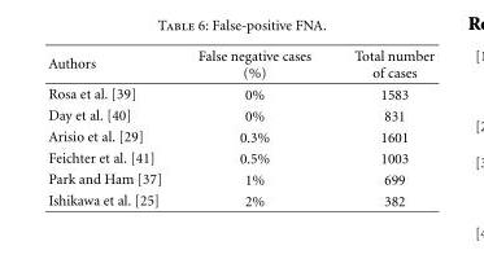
<table><thead><tr><td>Authors</td><td>False negative cases (%)</td><td>Total number of cases</td></tr></thead><tbody><tr><td>Rosa et al. [39]</td><td>0%</td><td>1583</td></tr><tr><td>Day et al. [40]</td><td>0%</td><td>831</td></tr><tr><td>Arisio et al. [29]</td><td>0.3%</td><td>1601</td></tr><tr><td>Feichter et al. [41]</td><td>0.5%</td><td>1003</td></tr><tr><td>Park and Ham [37]</td><td>1%</td><td>699</td></tr><tr><td>Ishikawa et al. [25]</td><td>2%</td><td>382</td></tr></tbody></table>